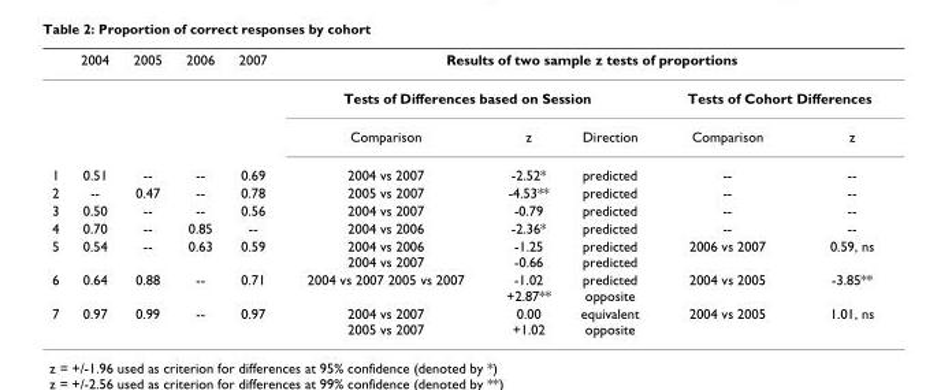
<table><thead><tr><td rowspan="3"></td><td rowspan="3">2004</td><td rowspan="3">2005</td><td rowspan="3">2006</td><td rowspan="3">2007</td><td colspan="5">Results of two sample z tests of proportions</td></tr><tr><td colspan="3">Tests of Differences based on Session</td><td colspan="2">Tests of Cohort Differences</td></tr><tr><td>Comparison</td><td>z</td><td>Direction</td><td>Comparison</td><td>z</td></tr></thead><tbody><tr><td>1</td><td>0.51</td><td>--</td><td>--</td><td>0.69</td><td>2004 vs 2007</td><td>-2.52*</td><td>predicted</td><td>--</td><td>--</td></tr><tr><td>2</td><td>--</td><td>0.47</td><td>--</td><td>0.78</td><td>2005 vs 2007</td><td>-4.53**</td><td>predicted</td><td>--</td><td>--</td></tr><tr><td>3</td><td>0.50</td><td>--</td><td>--</td><td>0.56</td><td>2004 vs 2007</td><td>-0.79</td><td>predicted</td><td>--</td><td>--</td></tr><tr><td>4</td><td>0.70</td><td>--</td><td>0.85</td><td>--</td><td>2004 vs 2006</td><td>-2.36*</td><td>predicted</td><td>--</td><td>--</td></tr><tr><td>5</td><td>0.54</td><td>--</td><td>0.63</td><td>0.59</td><td>2004 vs 2006 2004 vs 2007</td><td>-1.25 -0.66</td><td>predicted predicted</td><td>2006 vs 2007</td><td>0.59, ns</td></tr><tr><td>6</td><td>0.64</td><td>0.88</td><td>--</td><td>0.71</td><td>2004 vs 2007 2005 vs 2007</td><td>-1.02 +2.87**</td><td>predicted opposite</td><td>2004 vs 2005</td><td>-3.85**</td></tr><tr><td>7</td><td>0.97</td><td>0.99</td><td>--</td><td>0.97</td><td>2004 vs 2007 2005 vs 2007</td><td>0.00 +1.02</td><td>equivalent opposite</td><td>2004 vs 2005</td><td>1.01, ns</td></tr></tbody></table>